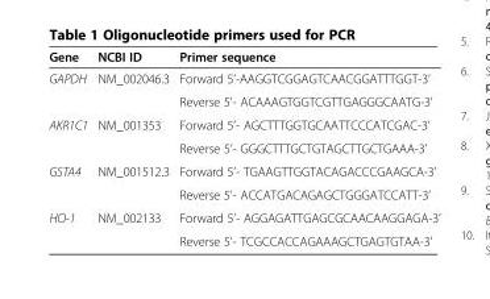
<table><thead><tr><td>Gene</td><td>NCBI ID</td><td>Primer sequence</td></tr></thead><tbody><tr><td rowspan="2">GAPDH</td><td rowspan="2">NM_002046.3</td><td>Forward 5’-AAGGTCGGAGTCAACGGATTTGGT-3’</td></tr><tr><td>Reverse 5’- ACAAAGTGGTCGTTGAGGGCAATG-3’</td></tr><tr><td rowspan="2">AKR1C1</td><td rowspan="2">NM_001353</td><td>Forward 5’- AGCTTTGGTGCAATTCCCATCGAC-3’</td></tr><tr><td>Reverse 5’- GGGCTTTGCTGTAGCTTGCTGAAA-3’</td></tr><tr><td rowspan="2">GSTA4</td><td rowspan="2">NM_001512.3</td><td>Forward 5’- TGAAGTTGGTACAGACCCGAAGCA-3’</td></tr><tr><td>Reverse 5’- ACCATGACAGAGCTGGGATCCATT-3’</td></tr><tr><td rowspan="2">HO-1</td><td>NM_002133</td><td>Forward 5’- AGGAGATTGAGCGCAACAAGGAGA-3’</td></tr><tr><td></td><td>Reverse 5’- TCGCCACCAGAAAGCTGAGTGTAA-3’</td></tr></tbody></table>